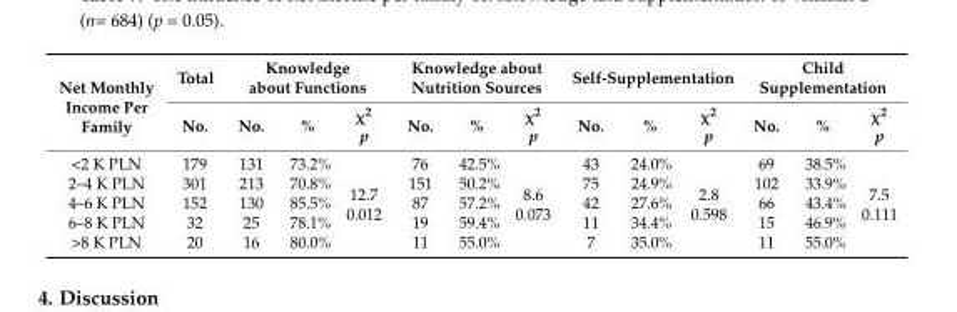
<table><thead><tr><td rowspan="2">Net Monthly Income Per Family</td><td rowspan="2">Total No.</td><td colspan="3">Knowledge about Functions</td><td colspan="3">Knowledge about Nutrition Sources</td><td colspan="3">Self-Supplementation</td><td colspan="3">Child Supplementation</td></tr><tr><td>No.</td><td>%</td><td>χ<sup>2</sup> p</td><td>No.</td><td>%</td><td>χ<sup>2</sup> p</td><td>No.</td><td>%</td><td>χ<sup>2</sup> p</td><td>No.</td><td>%</td><td>χ<sup>2</sup> p</td></tr></thead><tbody><tr><td>&lt;2 K PLN</td><td>179</td><td>131</td><td>73.2%</td><td rowspan="5">12.7 0.012</td><td>76</td><td>42.5%</td><td rowspan="5">8.6 0.073</td><td>43</td><td>24.0%</td><td rowspan="5">2.8 0.598</td><td>69</td><td>38.5%</td><td rowspan="5">7.5 0.111</td></tr><tr><td>2–4 K PLN</td><td>301</td><td>213</td><td>70.8%</td><td>151</td><td>50.2%</td><td>75</td><td>24.9%</td><td>102</td><td>33.9%</td></tr><tr><td>4–6 K PLN</td><td>152</td><td>130</td><td>85.5%</td><td>87</td><td>57.2%</td><td>42</td><td>27.6%</td><td>66</td><td>43.4%</td></tr><tr><td>6–8 K PLN</td><td>32</td><td>25</td><td>78.1%</td><td>19</td><td>59.4%</td><td>11</td><td>34.4%</td><td>15</td><td>46.9%</td></tr><tr><td>&gt;8 K PLN</td><td>20</td><td>16</td><td>80.0%</td><td>11</td><td>55.0%</td><td>7</td><td>35.0%</td><td>11</td><td>55.0%</td></tr></tbody></table>